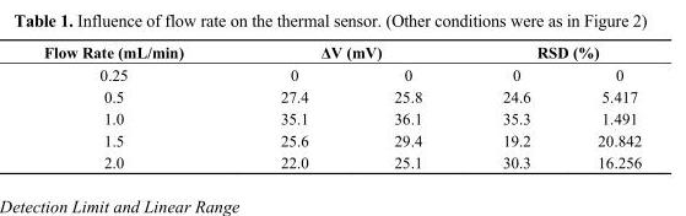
<table><thead><tr><td rowspan="2">Flow Rate (mL/min) 0.25</td><td colspan="2">ΔV (mV)</td><td colspan="2">RSD (%)</td></tr><tr><td>0</td><td>0</td><td>0</td><td>0</td></tr></thead><tbody><tr><td>0.5</td><td>27.4</td><td>25.8</td><td>24.6</td><td>5.417</td></tr><tr><td>1.0</td><td>35.1</td><td>36.1</td><td>35.3</td><td>1.491</td></tr><tr><td>1.5</td><td>25.6</td><td>29.4</td><td>19.2</td><td>20.842</td></tr><tr><td>2.0</td><td>22.0</td><td>25.1</td><td>30.3</td><td>16.256</td></tr></tbody></table>